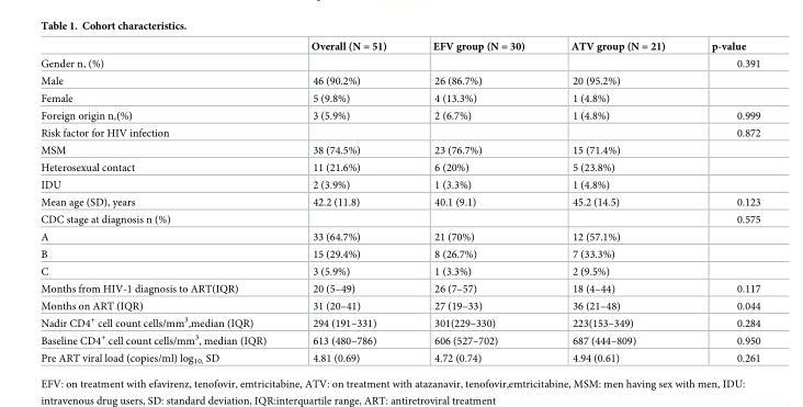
<table><thead><tr><td></td><td>Overall (N = 51)</td><td>EFV group (N = 30)</td><td>ATV group (N = 21)</td><td>p-value</td></tr></thead><tbody><tr><td>Gender n, (%)</td><td></td><td></td><td></td><td>0.391</td></tr><tr><td>Male</td><td>46 (90.2%)</td><td>26 (86.7%)</td><td>20 (95.2%)</td><td></td></tr><tr><td>Female</td><td>5 (9.8%)</td><td>4 (13.3%)</td><td>1 (4.8%)</td><td></td></tr><tr><td>Foreign origin n,(%)</td><td>3 (5.9%)</td><td>2 (6.7%)</td><td>1 (4.8%)</td><td>0.999</td></tr><tr><td>Risk factor for HIV infection</td><td></td><td></td><td></td><td>0.872</td></tr><tr><td>MSM</td><td>38 (74.5%)</td><td>23 (76.7%)</td><td>15 (71.4%)</td><td></td></tr><tr><td>Heterosexual contact</td><td>11 (21.6%)</td><td>6 (20%)</td><td>5 (23.8%)</td><td></td></tr><tr><td>IDU</td><td>2 (3.9%)</td><td>1 (3.3%)</td><td>1 (4.8%)</td><td></td></tr><tr><td>Mean age (SD), years</td><td>42.2 (11.8)</td><td>40.1 (9.1)</td><td>45.2 (14.5)</td><td>0.123</td></tr><tr><td>CDC stage at diagnosis n (%)</td><td></td><td></td><td></td><td>0.575</td></tr><tr><td>A</td><td>33 (64.7%)</td><td>21 (70%)</td><td>12 (57.1%)</td><td></td></tr><tr><td>B</td><td>15 (29.4%)</td><td>8 (26.7%)</td><td>7 (33.3%)</td><td></td></tr><tr><td>C</td><td>3 (5.9%)</td><td>1 (3.3%)</td><td>2 (9.5%)</td><td></td></tr><tr><td>Months from HIV-1 diagnosis to ART(IQR)</td><td>20 (5–49)</td><td>26 (7–57)</td><td>18 (4–44)</td><td>0.117</td></tr><tr><td>Months on ART (IQR)</td><td>31 (20–41)</td><td>27 (19–33)</td><td>36 (21–48)</td><td>0.044</td></tr><tr><td>Nadir CD4<sup>+</sup> cell count cells/mm<sup>3</sup>,median (IQR)</td><td>294 (191–331)</td><td>301(229–330)</td><td>223(153–349)</td><td>0.284</td></tr><tr><td>Baseline CD4<sup>+</sup> cell count cells/mm<sup>3</sup>, median (IQR)</td><td>613 (480–786)</td><td>606 (527–702)</td><td>687 (444–809)</td><td>0.950</td></tr><tr><td>Pre ART viral load (copies/ml) log<sub>10,</sub> SD</td><td>4.81 (0.69)</td><td>4.72 (0.74)</td><td>4.94 (0.61)</td><td>0.261</td></tr></tbody></table>